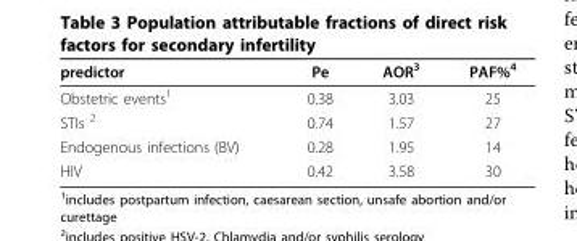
<table><thead><tr><td>predictor</td><td>Pe</td><td>AOR<sup>3</sup></td><td>PAF%<sup>4</sup></td></tr></thead><tbody><tr><td>Obstetric events<sup>1</sup></td><td>0.38</td><td>3.03</td><td>25</td></tr><tr><td>STIs <sup>2</sup></td><td>0.74</td><td>1.57</td><td>27</td></tr><tr><td>Endogenous infections (BV)</td><td>0.28</td><td>1.95</td><td>14</td></tr><tr><td>HIV</td><td>0.42</td><td>3.58</td><td>30</td></tr></tbody></table>